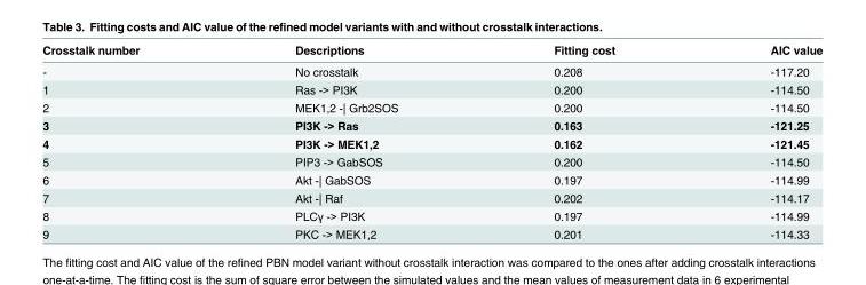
<table><thead><tr><td>Crosstalk number</td><td>Descriptions</td><td>Fitting cost</td><td>AIC value</td></tr></thead><tbody><tr><td>-</td><td>No crosstalk</td><td>0.208</td><td>-117.20</td></tr><tr><td>1</td><td>Ras -&gt; PI3K</td><td>0.200</td><td>-114.50</td></tr><tr><td>2</td><td>MEK1,2 -| Grb2SOS</td><td>0.200</td><td>-114.50</td></tr><tr><td>3</td><td>PI3K -&gt; Ras</td><td>0.163</td><td>-121.25</td></tr><tr><td>4</td><td>PI3K -&gt; MEK1,2</td><td>0.162</td><td>-121.45</td></tr><tr><td>5</td><td>PIP3 -&gt; GabSOS</td><td>0.200</td><td>-114.50</td></tr><tr><td>6</td><td>Akt -| GabSOS</td><td>0.197</td><td>-114.99</td></tr><tr><td>7</td><td>Akt -| Raf</td><td>0.202</td><td>-114.17</td></tr><tr><td>8</td><td>PLCγ -&gt; PI3K</td><td>0.197</td><td>-114.99</td></tr><tr><td>9</td><td>PKC -&gt; MEK1,2</td><td>0.201</td><td>-114.33</td></tr></tbody></table>